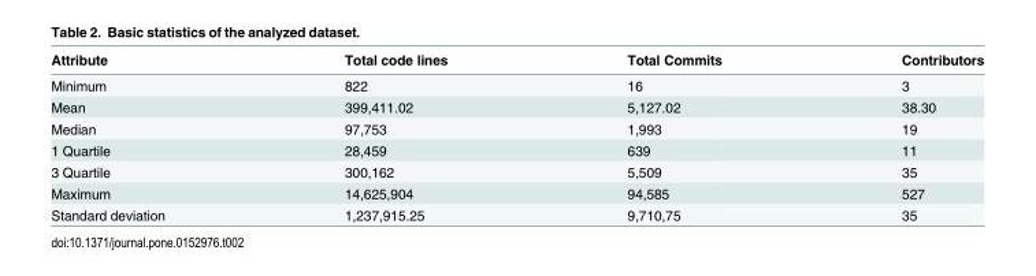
<table><thead><tr><td>Attribute</td><td>Total code lines</td><td>Total Commits</td><td>Contributors</td></tr></thead><tbody><tr><td>Minimum</td><td>822</td><td>16</td><td>3</td></tr><tr><td>Mean</td><td>399,411.02</td><td>5,127.02</td><td>38.30</td></tr><tr><td>Median</td><td>97,753</td><td>1,993</td><td>19</td></tr><tr><td>1 Quartile</td><td>28,459</td><td>639</td><td>11</td></tr><tr><td>3 Quartile</td><td>300,162</td><td>5,509</td><td>35</td></tr><tr><td>Maximum</td><td>14,625,904</td><td>94,585</td><td>527</td></tr><tr><td>Standard deviation</td><td>1,237,915.25</td><td>9,710,75</td><td>35</td></tr></tbody></table>